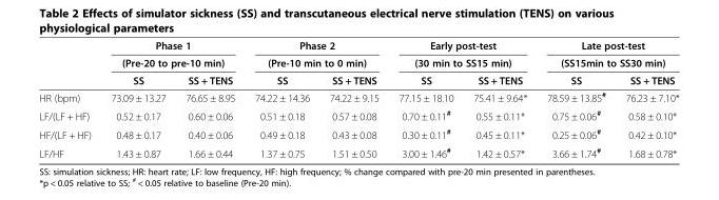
<table><thead><tr><td rowspan="3"></td><td rowspan="2" colspan="2">Phase 1 (Pre-20 to pre-10 min)</td><td rowspan="2" colspan="2">Phase 2 (Pre-10 min to 0 min)</td><td rowspan="2" colspan="2">Early post-test (30 min to SS15 min)</td><td rowspan="2" colspan="2">Late post-test (SS15min to SS30 min)</td></tr><tr></tr><tr><td>SS</td><td>SS + TENS</td><td>SS</td><td>SS + TENS</td><td>SS</td><td>SS + TENS</td><td>SS</td><td>SS + TENS</td></tr></thead><tbody><tr><td>HR (bpm)</td><td>73.09 ± 13.27</td><td>76.65 ± 8.95</td><td>74.22 ± 14.36</td><td>74.22 ± 9.15</td><td>77.15 ± 18.10</td><td>75.41 ± 9.64*</td><td>78.59 ± 13.85<sup>#</sup></td><td>76.23 ± 7.10*</td></tr><tr><td>LF/(LF + HF)</td><td>0.52 ± 0.17</td><td>0.60 ± 0.06</td><td>0.51 ± 0.18</td><td>0.57 ± 0.08</td><td>0.70 ± 0.11<sup>#</sup></td><td>0.55 ± 0.11*</td><td>0.75 ± 0.06<sup>#</sup></td><td>0.58 ± 0.10*</td></tr><tr><td>HF/(LF + HF)</td><td>0.48 ± 0.17</td><td>0.40 ± 0.06</td><td>0.49 ± 0.18</td><td>0.43 ± 0.08</td><td>0.30 ± 0.11<sup>#</sup></td><td>0.45 ± 0.11*</td><td>0.25 ± 0.06<sup>#</sup></td><td>0.42 ± 0.10*</td></tr><tr><td>LF/HF</td><td>1.43 ± 0.87</td><td>1.66 ± 0.44</td><td>1.37 ± 0.75</td><td>1.51 ± 0.50</td><td>3.00 ± 1.46<sup>#</sup></td><td>1.42 ± 0.57*</td><td>3.66 ± 1.74<sup>#</sup></td><td>1.68 ± 0.78*</td></tr></tbody></table>